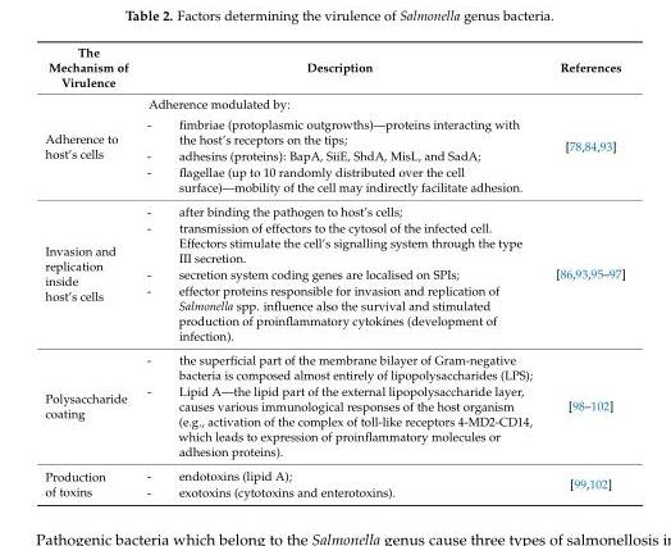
<table><thead><tr><td>The Mechanism of Virulence</td><td>Description</td><td>References</td></tr></thead><tbody><tr><td>Adherence to host’s cells</td><td>Adherence modulated by: - fimbriae (protoplasmic outgrowths)—proteins interacting with the host’s receptors on the tips; - adhesins (proteins): BapA, SiiE, ShdA, MisL, and SadA; - flagellae (up to 10 randomly distributed over the cell surface)—mobility of the cell may indirectly facilitate adhesion.</td><td>[78,84,93]</td></tr><tr><td>Invasion and replication inside host’s cells</td><td>- after binding the pathogen to host’s cells; - transmission of effectors to the cytosol of the infected cell. Effectors stimulate the cell’s signalling system through the type III secretion. - secretion system coding genes are localised on SPIs; - effector proteins responsible for invasion and replication of Salmonella spp. influence also the survival and stimulated production of proinflammatory cytokines (development of infection).</td><td>[86,93,95–97]</td></tr><tr><td>Polysaccharide coating</td><td>- the superficial part of the membrane bilayer of Gram-negative bacteria is composed almost entirely of lipopolysaccharides (LPS); - Lipid A—the lipid part of the external lipopolysaccharide layer, causes various immunological responses of the host organism (e.g., activation of the complex of toll-like receptors 4-MD2-CD14, which leads to expression of proinflammatory molecules or adhesion proteins).</td><td>[98–102]</td></tr><tr><td>Production of toxins</td><td>- endotoxins (lipid A); - exotoxins (cytotoxins and enterotoxins).</td><td>[99,102]</td></tr></tbody></table>